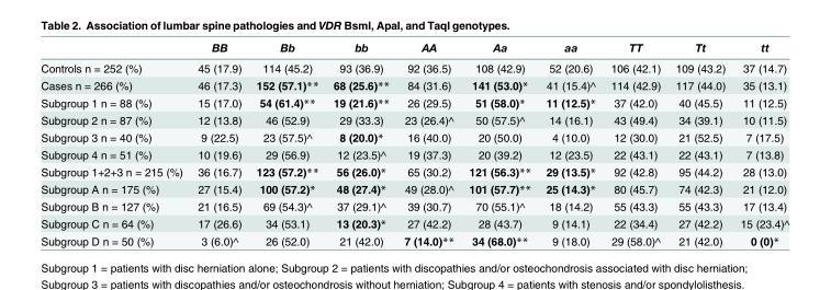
<table><thead><tr><td></td><td>BB</td><td>Bb</td><td>bb</td><td>AA</td><td>Aa</td><td>aa</td><td>TT</td><td>Tt</td><td>tt</td></tr></thead><tbody><tr><td>Controls n = 252 (%)</td><td>45 (17.9)</td><td>114 (45.2)</td><td>93 (36.9)</td><td>92 (36.5)</td><td>108 (42.9)</td><td>52 (20.6)</td><td>106 (42.1)</td><td>109 (43.2)</td><td>37 (14.7)</td></tr><tr><td>Cases n = 266 (%)</td><td>46 (17.3)</td><td>152 (57.1)**</td><td>68 (25.6)**</td><td>84 (31.6)</td><td>141 (53.0)*</td><td>41 (15.4)^</td><td>114 (42.9)</td><td>117 (44.0)</td><td>35 (13.1)</td></tr><tr><td>Subgroup 1 n = 88 (%)</td><td>15 (17.0)</td><td>54 (61.4)**</td><td>19 (21.6)**</td><td>26 (29.5)</td><td>51 (58.0)*</td><td>11 (12.5)*</td><td>37 (42.0)</td><td>40 (45.5)</td><td>11 (12.5)</td></tr><tr><td>Subgroup 2 n = 87 (%)</td><td>12 (13.8)</td><td>46 (52.9)</td><td>29 (33.3)</td><td>23 (26.4)^</td><td>50 (57.5)^</td><td>14 (16.1)</td><td>43 (49.4)</td><td>34 (39.1)</td><td>10 (11.5)</td></tr><tr><td>Subgroup 3 n = 40 (%)</td><td>9 (22.5)</td><td>23 (57.5)^</td><td>8 (20.0)*</td><td>16 (40.0)</td><td>20 (50.0)</td><td>4 (10.0)</td><td>12 (30.0)</td><td>21 (52.5)</td><td>7 (17.5)</td></tr><tr><td>Subgroup 4 n = 51 (%)</td><td>10 (19.6)</td><td>29 (56.9)</td><td>12 (23.5)^</td><td>19 (37.3)</td><td>20 (39.2)</td><td>12 (23.5)</td><td>22 (43.1)</td><td>22 (43.1)</td><td>7 (13.8)</td></tr><tr><td>Subgroup 1+2+3 n = 215 (%)</td><td>36 (16.7)</td><td>123 (57.2)**</td><td>56 (26.0)*</td><td>65 (30.2)</td><td>121 (56.3)**</td><td>29 (13.5)*</td><td>92 (42.8)</td><td>95 (44.2)</td><td>28 (13.0)</td></tr><tr><td>Subgroup A n = 175 (%)</td><td>27 (15.4)</td><td>100 (57.2)*</td><td>48 (27.4)*</td><td>49 (28.0)^</td><td>101 (57.7)**</td><td>25 (14.3)*</td><td>80 (45.7)</td><td>74 (42.3)</td><td>21 (12.0)</td></tr><tr><td>Subgroup B n = 127 (%)</td><td>21 (16.5)</td><td>69 (54.3)^</td><td>37 (29.1)^</td><td>39 (30.7)</td><td>70 (55.1)^</td><td>18 (14.2)</td><td>55 (43.3)</td><td>55 (43.3)</td><td>17 (13.4)</td></tr><tr><td>Subgroup C n = 64 (%)</td><td>17 (26.6)</td><td>34 (53.1)</td><td>13 (20.3)*</td><td>27 (42.2)</td><td>28 (43.7)</td><td>9 (14.1)</td><td>22 (34.4)</td><td>27 (42.2)</td><td>15 (23.4)^</td></tr><tr><td>Subgroup D n = 50 (%)</td><td>3 (6.0)^</td><td>26 (52.0)</td><td>21 (42.0)</td><td>7 (14.0)**</td><td>34 (68.0)**</td><td>9 (18.0)</td><td>29 (58.0)^</td><td>21 (42.0)</td><td>0 (0)*</td></tr></tbody></table>